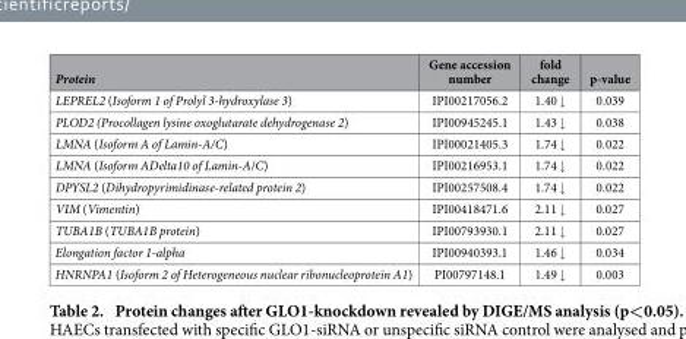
<table><thead><tr><td>Protein</td><td>Gene accession number</td><td>fold change</td><td>p-value</td></tr></thead><tbody><tr><td>LEPREL2 (Isoform 1 of Prolyl 3-hydroxylase 3)</td><td>IPI00217056.2</td><td>1.40 ↓</td><td>0.039</td></tr><tr><td>PLOD2 (Procollagen lysine oxoglutarate dehydrogenase 2)</td><td>IPI00945245.1</td><td>1.43 ↓</td><td>0.038</td></tr><tr><td>LMNA (Isoform A of Lamin-A/C)</td><td>IPI00021405.3</td><td>1.74 ↓</td><td>0.022</td></tr><tr><td>LMNA (Isoform ADelta10 of Lamin-A/C)</td><td>IPI00216953.1</td><td>1.74 ↓</td><td>0.022</td></tr><tr><td>DPYSL2 (Dihydropyrimidinase-related protein 2)</td><td>IPI00257508.4</td><td>1.74 ↓</td><td>0.022</td></tr><tr><td>VIM (Vimentin)</td><td>IPI00418471.6</td><td>2.11 ↓</td><td>0.027</td></tr><tr><td>TUBA1B (TUBA1B protein)</td><td>IPI00793930.1</td><td>2.11 ↓</td><td>0.027</td></tr><tr><td>Elongation factor 1-alpha</td><td>IPI00940393.1</td><td>1.46 ↓</td><td>0.034</td></tr><tr><td>HNRNPA1 (Isoform 2 of Heterogeneous nuclear ribonucleoprotein A1)</td><td>PI00797148.1</td><td>1.49 ↓</td><td>0.003</td></tr></tbody></table>